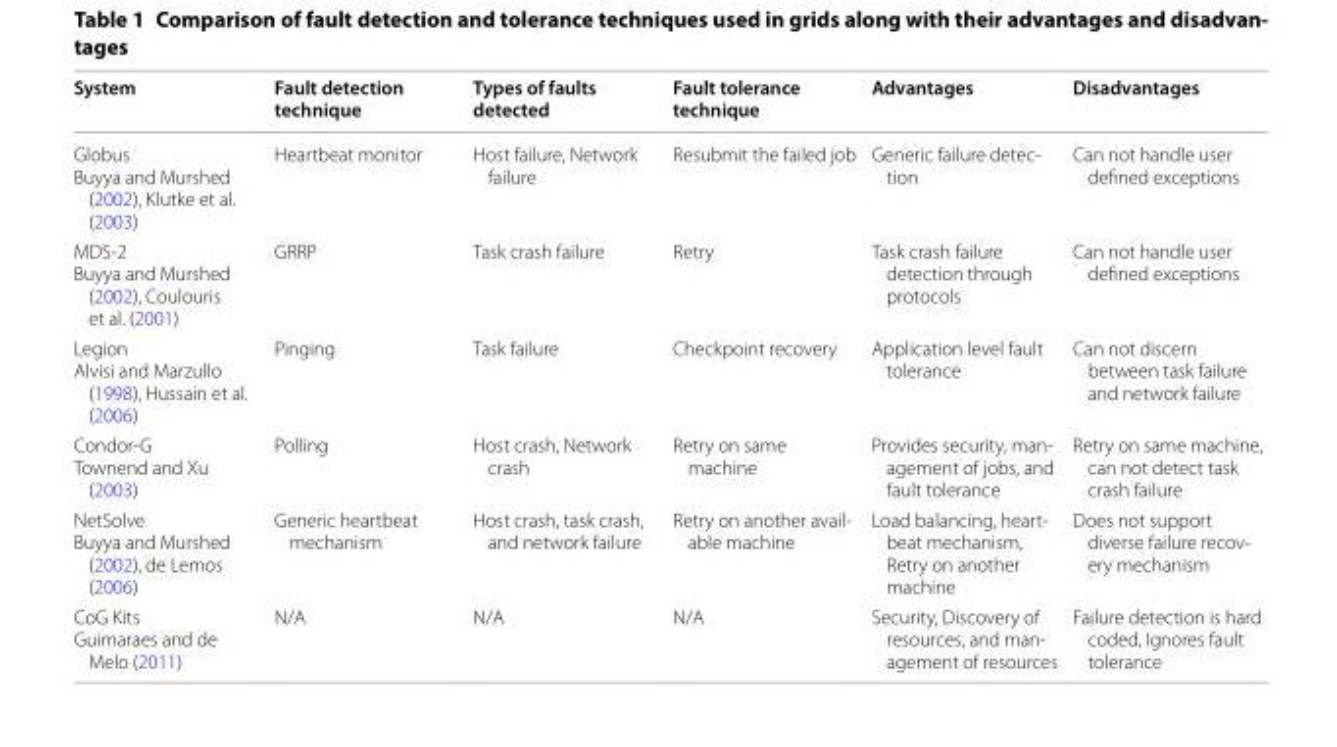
<table><thead><tr><td>System</td><td>Fault detection technique</td><td>Types of faults detected</td><td>Fault tolerance technique</td><td>Advantages</td><td>Disadvantages</td></tr></thead><tbody><tr><td>Globus Buyya and Murshed (2002), Klutke et al. (2003)</td><td>Heartbeat monitor</td><td>Host failure, Network failure</td><td>Resubmit the failed job</td><td>Generic failure detec- tion</td><td>Can not handle user defined exceptions</td></tr><tr><td>MDS-2 Buyya and Murshed (2002), Coulouris et al. (2001)</td><td>GRRP</td><td>Task crash failure</td><td>Retry</td><td>Task crash failure detection through protocols</td><td>Can not handle user defined exceptions</td></tr><tr><td>Legion Alvisi and Marzullo (1998), Hussain et al. (2006)</td><td>Pinging</td><td>Task failure</td><td>Checkpoint recovery</td><td>Application level fault tolerance</td><td>Can not discern between task failure and network failure</td></tr><tr><td>Condor-G Townend and Xu (2003)</td><td>Polling</td><td>Host crash, Network crash</td><td>Retry on same machine</td><td>Provides security, man- agement of jobs, and fault tolerance</td><td>Retry on same machine, can not detect task crash failure</td></tr><tr><td>NetSolve Buyya and Murshed (2002), de Lemos (2006)</td><td>Generic heartbeat mechanism</td><td>Host crash, task crash, and network failure</td><td>Retry on another avail- able machine</td><td>Load balancing, heart- beat mechanism, Retry on another machine</td><td>Does not support diverse failure recov- ery mechanism</td></tr><tr><td>CoG Kits Guimaraes and de Melo (2011)</td><td>N/A</td><td>N/A</td><td>N/A</td><td>Security, Discovery of resources, and man- agement of resources</td><td>Failure detection is hard coded, Ignores fault tolerance</td></tr></tbody></table>